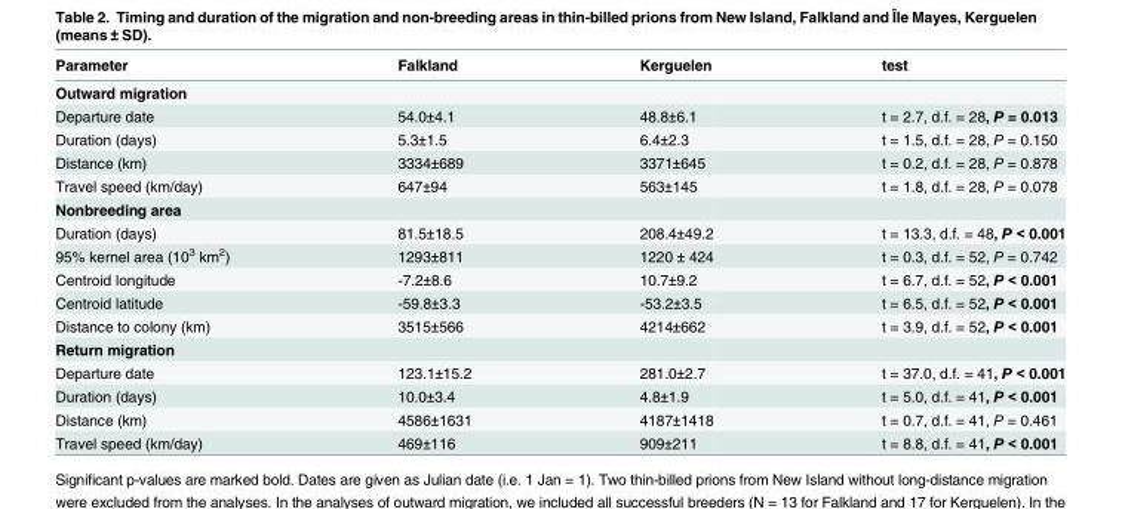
<table><thead><tr><td>Parameter</td><td>Falkland</td><td>Kerguelen</td><td>test</td></tr></thead><tbody><tr><td colspan="4">Outward migration</td></tr><tr><td>Departure date</td><td>54.0±4.1</td><td>48.8±6.1</td><td>t = 2.7, d.f. = 28, P = 0.013</td></tr><tr><td>Duration (days)</td><td>5.3±1.5</td><td>6.4±2.3</td><td>t = 1.5, d.f. = 28, P = 0.150</td></tr><tr><td>Distance (km)</td><td>3334±689</td><td>3371±645</td><td>t = 0.2, d.f. = 28, P = 0.878</td></tr><tr><td>Travel speed (km/day)</td><td>647±94</td><td>563±145</td><td>t = 1.8, d.f. = 28, P = 0.078</td></tr><tr><td colspan="4">Nonbreeding area</td></tr><tr><td>Duration (days)</td><td>81.5±18.5</td><td>208.4±49.2</td><td>t = 13.3, d.f. = 48, P &lt; 0.001</td></tr><tr><td>95% kernel area (10<sup>3</sup> km<sup>2</sup>)</td><td>1293±811</td><td>1220 ± 424</td><td>t = 0.3, d.f. = 52, P = 0.742</td></tr><tr><td>Centroid longitude</td><td>-7.2±8.6</td><td>10.7±9.2</td><td>t = 6.7, d.f. = 52, P &lt; 0.001</td></tr><tr><td>Centroid latitude</td><td>-59.8±3.3</td><td>-53.2±3.5</td><td>t = 6.5, d.f. = 52, P &lt; 0.001</td></tr><tr><td>Distance to colony (km)</td><td>3515±566</td><td>4214±662</td><td>t = 3.9, d.f. = 52, P &lt; 0.001</td></tr><tr><td colspan="4">Return migration</td></tr><tr><td>Departure date</td><td>123.1±15.2</td><td>281.0±2.7</td><td>t = 37.0, d.f. = 41, P &lt; 0.001</td></tr><tr><td>Duration (days)</td><td>10.0±3.4</td><td>4.8±1.9</td><td>t = 5.0, d.f. = 41, P &lt; 0.001</td></tr><tr><td>Distance (km)</td><td>4586±1631</td><td>4187±1418</td><td>t = 0.7, d.f. = 41, P = 0.461</td></tr><tr><td>Travel speed (km/day)</td><td>469±116</td><td>909±211</td><td>t = 8.8, d.f. = 41, P &lt; 0.001</td></tr></tbody></table>